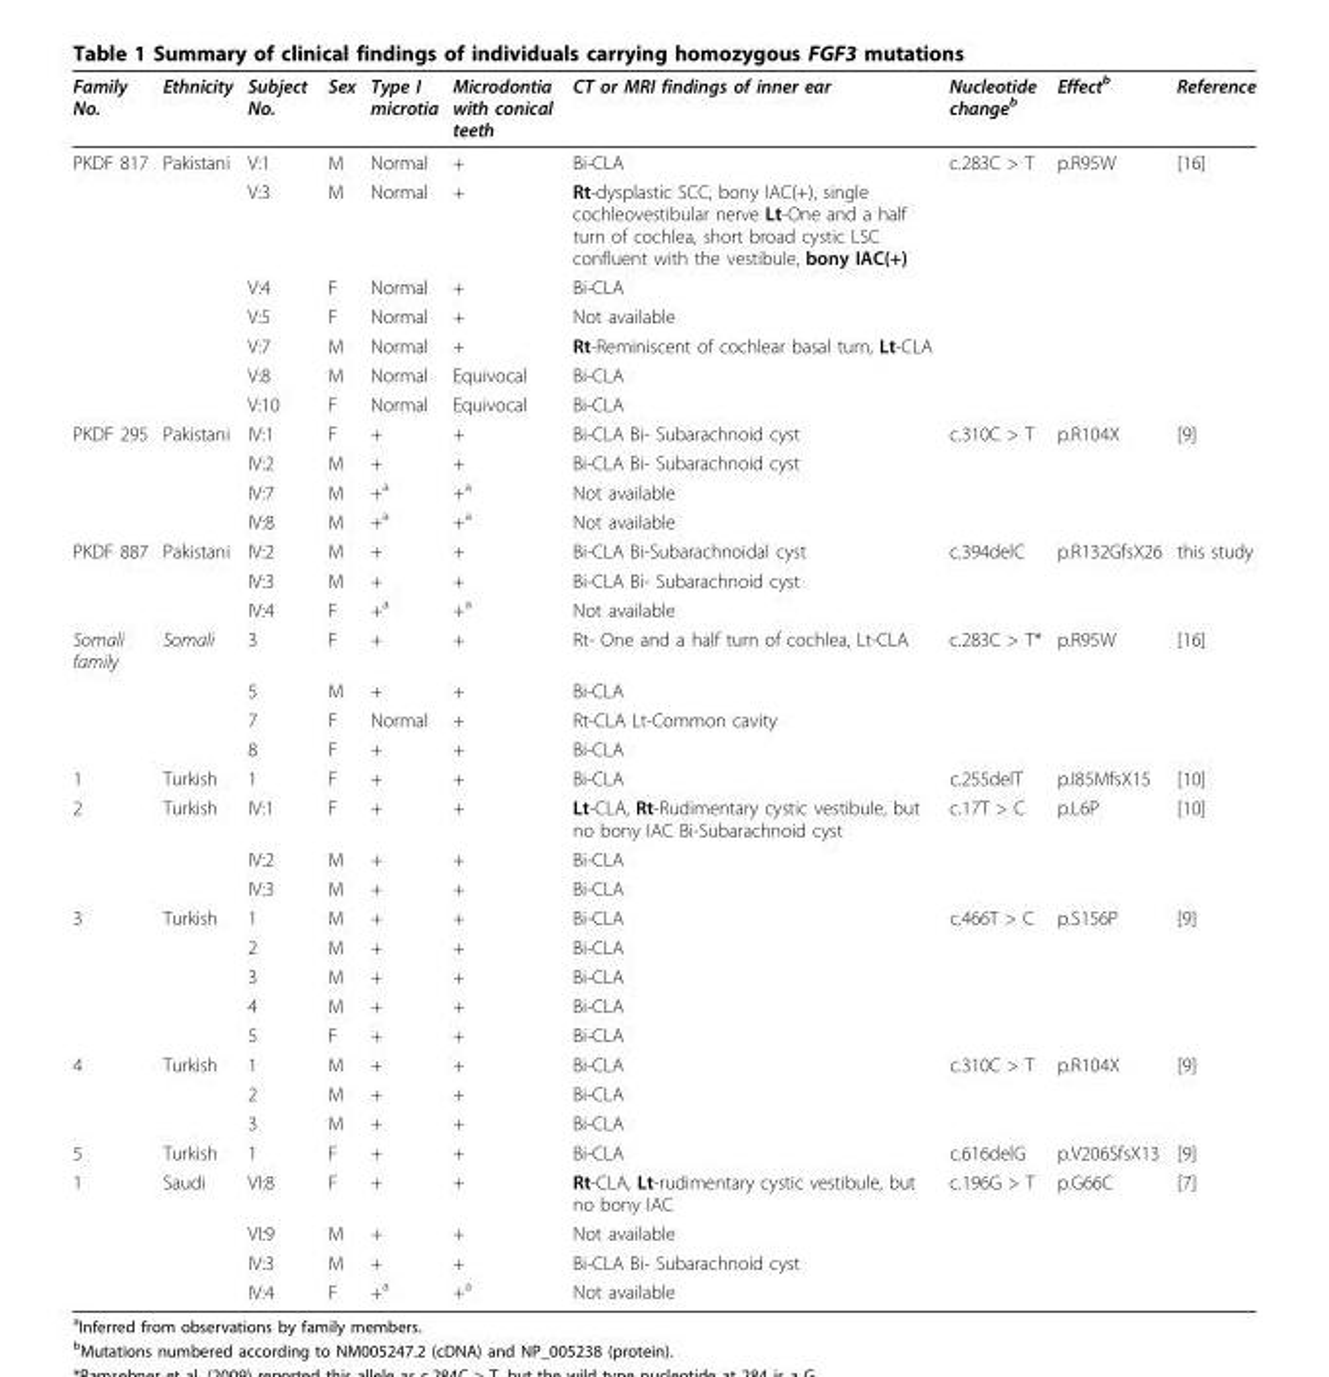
<table><thead><tr><td>Family No.</td><td>Ethnicity</td><td>Subject No.</td><td>Sex</td><td>Type I microtia</td><td>Microdontia with conical teeth</td><td>CT or MRI findings of inner ear</td><td>Nucleotide change<sup>b</sup></td><td>Effect<sup>b</sup></td><td>Reference</td></tr></thead><tbody><tr><td rowspan="7">PKDF 817</td><td>Pakistani</td><td>V:1</td><td>M</td><td>Normal</td><td>+</td><td>Bi-CLA</td><td>c.283C &gt; T</td><td>p.R95W</td><td>[16]</td></tr><tr><td></td><td>V:3</td><td>M</td><td>Normal</td><td>+</td><td>Rt-dysplastic SCC, bony IAC(+), single cochleovestibular nerve Lt-One and a half turn of cochlea, short broad cystic LSC confluent with the vestibule, bony IAC(+)</td><td></td><td></td><td></td></tr><tr><td></td><td>V:4</td><td>F</td><td>Normal</td><td>+</td><td>Bi-CLA</td><td></td><td></td><td></td></tr><tr><td></td><td>V:5</td><td>F</td><td>Normal</td><td>+</td><td>Not available</td><td></td><td></td><td></td></tr><tr><td></td><td>V:7</td><td>M</td><td>Normal</td><td>+</td><td>Rt-Reminiscent of cochlear basal turn, Lt-CLA</td><td></td><td></td><td></td></tr><tr><td></td><td>V:8</td><td>M</td><td>Normal</td><td>Equivocal</td><td>Bi-CLA</td><td></td><td></td><td></td></tr><tr><td></td><td>V:10</td><td>F</td><td>Normal</td><td>Equivocal</td><td>Bi-CLA</td><td></td><td></td><td></td></tr><tr><td rowspan="4">PKDF 295</td><td>Pakistani</td><td>IV:1</td><td>F</td><td>+</td><td>+</td><td>Bi-CLA Bi- Subarachnoid cyst</td><td>c.310C &gt; T</td><td>p.R104X</td><td>[9]</td></tr><tr><td></td><td>IV:2</td><td>M</td><td>+</td><td>+</td><td>Bi-CLA Bi- Subarachnoid cyst</td><td></td><td></td><td></td></tr><tr><td></td><td>IV:7</td><td>M</td><td>+<sup>a</sup></td><td>+<sup>a</sup></td><td>Not available</td><td></td><td></td><td></td></tr><tr><td></td><td>IV:8</td><td>M</td><td>+<sup>a</sup></td><td>+<sup>a</sup></td><td>Not available</td><td></td><td></td><td></td></tr><tr><td rowspan="3">PKDF 887</td><td>Pakistani</td><td>IV:2</td><td>M</td><td>+</td><td>+</td><td>Bi-CLA Bi-Subarachnoidal cyst</td><td>c.394delC</td><td>p.R132GfsX26</td><td>this study</td></tr><tr><td></td><td>IV:3</td><td>M</td><td>+</td><td>+</td><td>Bi-CLA Bi- Subarachnoid cyst</td><td></td><td></td><td></td></tr><tr><td></td><td>IV:4</td><td>F</td><td>+<sup>a</sup></td><td>+<sup>a</sup></td><td>Not available</td><td></td><td></td><td></td></tr><tr><td rowspan="4">Somali family</td><td>Somali</td><td>3</td><td>F</td><td>+</td><td>+</td><td>Rt- One and a half turn of cochlea, Lt-CLA</td><td>c.283C &gt; T*</td><td>p.R95W</td><td>[16]</td></tr><tr><td></td><td>5</td><td>M</td><td>+</td><td>+</td><td>Bi-CLA</td><td></td><td></td><td></td></tr><tr><td></td><td>7</td><td>F</td><td>Normal</td><td>+</td><td>Rt-CLA Lt-Common cavity</td><td></td><td></td><td></td></tr><tr><td></td><td>8</td><td>F</td><td>+</td><td>+</td><td>Bi-CLA</td><td></td><td></td><td></td></tr><tr><td>1</td><td>Turkish</td><td>1</td><td>F</td><td>+</td><td>+</td><td>Bi-CLA</td><td>c.255delT</td><td>p.I85MfsX15</td><td>[10]</td></tr><tr><td rowspan="3">2</td><td>Turkish</td><td>IV:1</td><td>F</td><td>+</td><td>+</td><td>Lt-CLA, Rt-Rudimentary cystic vestibule, but no bony IAC Bi-Subarachnoid cyst</td><td>c.17T &gt; C</td><td>p.L6P</td><td>[10]</td></tr><tr><td></td><td>IV:2</td><td>M</td><td>+</td><td>+</td><td>Bi-CLA</td><td></td><td></td><td></td></tr><tr><td></td><td>IV:3</td><td>M</td><td>+</td><td>+</td><td>Bi-CLA</td><td></td><td></td><td></td></tr><tr><td rowspan="5">3</td><td>Turkish</td><td>1</td><td>M</td><td>+</td><td>+</td><td>Bi-CLA</td><td>c.466T &gt; C</td><td>p.S156P</td><td>[9]</td></tr><tr><td></td><td>2</td><td>M</td><td>+</td><td>+</td><td>Bi-CLA</td><td></td><td></td><td></td></tr><tr><td></td><td>3</td><td>M</td><td>+</td><td>+</td><td>Bi-CLA</td><td></td><td></td><td></td></tr><tr><td></td><td>4</td><td>M</td><td>+</td><td>+</td><td>Bi-CLA</td><td></td><td></td><td></td></tr><tr><td></td><td>5</td><td>F</td><td>+</td><td>+</td><td>Bi-CLA</td><td></td><td></td><td></td></tr><tr><td rowspan="3">4</td><td>Turkish</td><td>1</td><td>M</td><td>+</td><td>+</td><td>Bi-CLA</td><td>c.310C &gt; T</td><td>p.R104X</td><td>[9]</td></tr><tr><td></td><td>2</td><td>M</td><td>+</td><td>+</td><td>Bi-CLA</td><td></td><td></td><td></td></tr><tr><td></td><td>3</td><td>M</td><td>+</td><td>+</td><td>Bi-CLA</td><td></td><td></td><td></td></tr><tr><td>5</td><td>Turkish</td><td>1</td><td>F</td><td>+</td><td>+</td><td>Bi-CLA</td><td>c.616delG</td><td>p.V206SfsX13</td><td>[9]</td></tr><tr><td rowspan="4">1</td><td>Saudi</td><td>VI:8</td><td>F</td><td>+</td><td>+</td><td>Rt-CLA, Lt-rudimentary cystic vestibule, but no bony IAC</td><td>c.196G &gt; T</td><td>p.G66C</td><td>[7]</td></tr><tr><td></td><td>VI:9</td><td>M</td><td>+</td><td>+</td><td>Not available</td><td></td><td></td><td></td></tr><tr><td></td><td>IV:3</td><td>M</td><td>+</td><td>+</td><td>Bi-CLA Bi- Subarachnoid cyst</td><td></td><td></td><td></td></tr><tr><td></td><td>IV:4</td><td>F</td><td>+<sup>a</sup></td><td>+<sup>a</sup></td><td>Not available</td><td></td><td></td><td></td></tr></tbody></table>